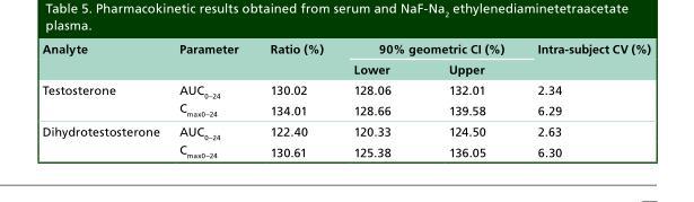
<table><thead><tr><td rowspan="2">Analyte</td><td rowspan="2">Parameter</td><td rowspan="2">Ratio (%)</td><td colspan="2">90% geometric CI (%)</td><td rowspan="2">Intra-subject CV (%)</td></tr><tr><td>Lower</td><td>Upper</td></tr></thead><tbody><tr><td rowspan="2">Testosterone</td><td>AUC<sub>0–24</sub></td><td>130.02</td><td>128.06</td><td>132.01</td><td>2.34</td></tr><tr><td>C<sub>max0–24</sub></td><td>134.01</td><td>128.66</td><td>139.58</td><td>6.29</td></tr><tr><td rowspan="2">Dihydrotestosterone</td><td>AUC<sub>0–24</sub></td><td>122.40</td><td>120.33</td><td>124.50</td><td>2.63</td></tr><tr><td>C<sub>max0–24</sub></td><td>130.61</td><td>125.38</td><td>136.05</td><td>6.30</td></tr></tbody></table>